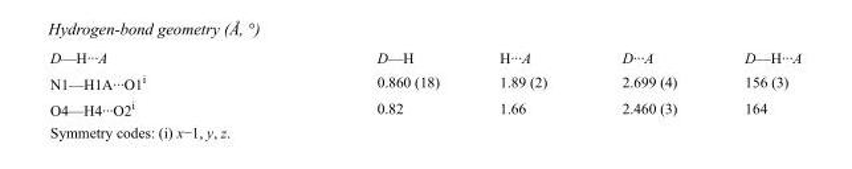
<table><tbody><tr><td>D—H···A</td><td>D—H</td><td>H···A</td><td>D···A</td><td>D—H···A</td></tr><tr><td>N1—H1A···O1<sup>i</sup></td><td>0.860 (18)</td><td>1.89 (2)</td><td>2.699 (4)</td><td>156 (3)</td></tr><tr><td>O4—H4···O2<sup>i</sup></td><td>0.82</td><td>1.66</td><td>2.460 (3)</td><td>164</td></tr></tbody></table>